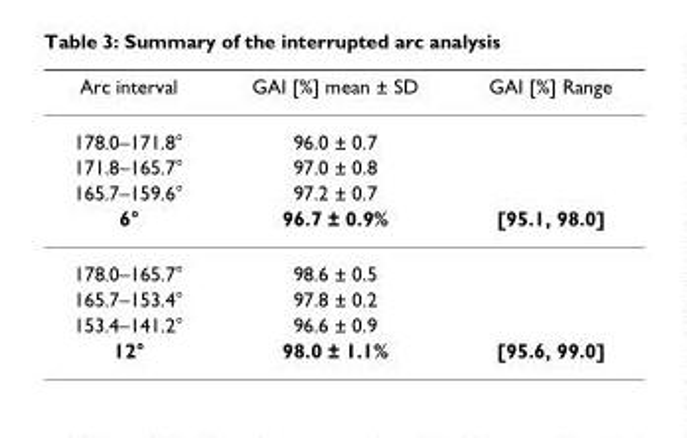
<table><thead><tr><td>Arc interval</td><td>GAI [%] mean ± SD</td><td>GAI [%] Range</td></tr></thead><tbody><tr><td>178.0–171.8°</td><td>96.0 ± 0.7</td><td></td></tr><tr><td>171.8–165.7°</td><td>97.0 ± 0.8</td><td></td></tr><tr><td>165.7–159.6°</td><td>97.2 ± 0.7</td><td></td></tr><tr><td>6°</td><td>96.7 ± 0.9%</td><td>[95.1, 98.0]</td></tr><tr><td>178.0–165.7°</td><td>98.6 ± 0.5</td><td></td></tr><tr><td>165.7–153.4°</td><td>97.8 ± 0.2</td><td></td></tr><tr><td>153.4–141.2°</td><td>96.6 ± 0.9</td><td></td></tr><tr><td>12°</td><td>98.0 ± 1.1%</td><td>[95.6, 99.0]</td></tr></tbody></table>